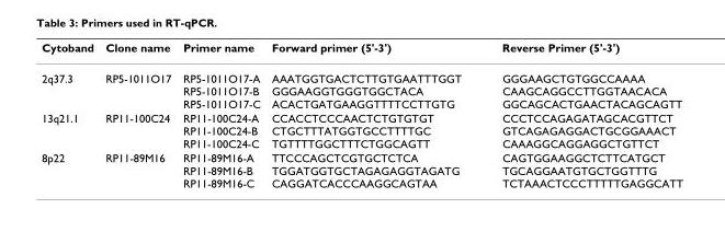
<table><thead><tr><td>Cytoband</td><td>Clone name</td><td>Primer name</td><td>Forward primer (5&#x27;-3&#x27;)</td><td>Reverse Primer (5&#x27;-3&#x27;)</td></tr></thead><tbody><tr><td>2q37.3</td><td>RP5-1011O17</td><td>RP5-1011O17-A RP5-1011O17-B RP5-1011O17-C</td><td>AAATGGTGACTCTTGTGAATTTGGT GGGAAGGTGGGTGGCTACA ACACTGATGAAGGTTTTCCTTGTG</td><td>GGGAAGCTGTGGCCAAAA CAAGCAGGCCTTGGTAACACA GGCAGCACTGAACTACAGCAGTT</td></tr><tr><td>13q21.1</td><td>RP11-100C24</td><td>RP11-100C24-A RP11-100C24-B RP11-100C24-C</td><td>CCACCTCCCAACTCTGTGTGT CTGCTTTATGGTGCCTTTTGC TGTTTTGGCTTTCTGGCAGTT</td><td>CCCTCCAGAGATAGCACGTTCT GTCAGAGAGGACTGCGGAAACT CAAAGGCAGGAGGCTGTTCT</td></tr><tr><td>8p22</td><td>RP11-89M16</td><td>RP11-89M16-A RP11-89M16-B RP11-89M16-C</td><td>TTCCCAGCTCGTGCTCTCA TGGATGGTGCTAGAGAGGTAGATG CAGGATCACCCAAGGCAGTAA</td><td>CAGTGGAAGGCTCTTCATGCT TGCAGGAATGTGCTGGTTTG TCTAAACTCCCTTTTTGAGGCATT</td></tr></tbody></table>